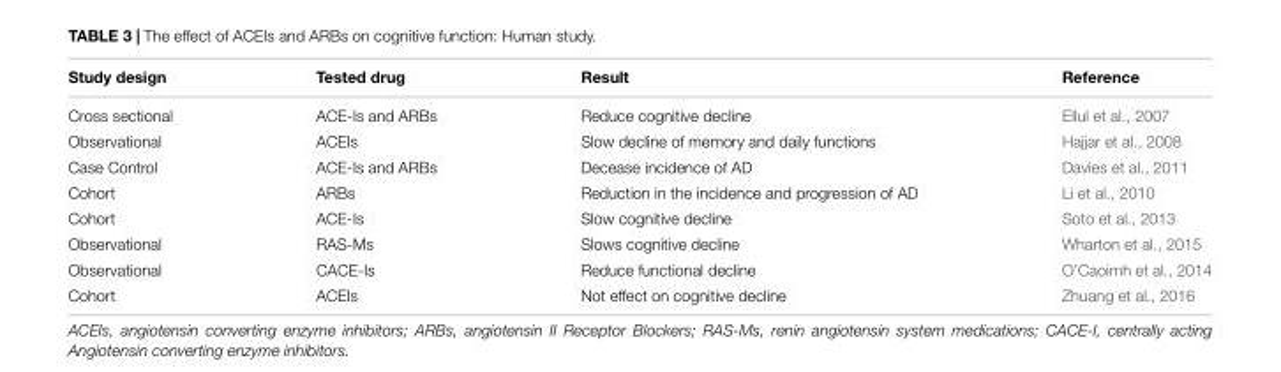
<table><thead><tr><td>Study design</td><td>Tested drug</td><td>Result</td><td>Reference</td></tr></thead><tbody><tr><td>Cross sectional</td><td>ACE-Is and ARBs</td><td>Reduce cognitive decline</td><td>Ellul et al., 2007</td></tr><tr><td>Observational</td><td>ACEIs</td><td>Slow decline of memory and daily functions</td><td>Hajjar et al., 2008</td></tr><tr><td>Case Control</td><td>ACE-Is and ARBs</td><td>Decease incidence of AD</td><td>Davies et al., 2011</td></tr><tr><td>Cohort</td><td>ARBs</td><td>Reduction in the incidence and progression of AD</td><td>Li et al., 2010</td></tr><tr><td>Cohort</td><td>ACE-Is</td><td>Slow cognitive decline</td><td>Soto et al., 2013</td></tr><tr><td>Observational</td><td>RAS-Ms</td><td>Slows cognitive decline</td><td>Wharton et al., 2015</td></tr><tr><td>Observational</td><td>CACE-Is</td><td>Reduce functional decline</td><td>O’Caoimh et al., 2014</td></tr><tr><td>Cohort</td><td>ACEIs</td><td>Not effect on cognitive decline</td><td>Zhuang et al., 2016</td></tr></tbody></table>